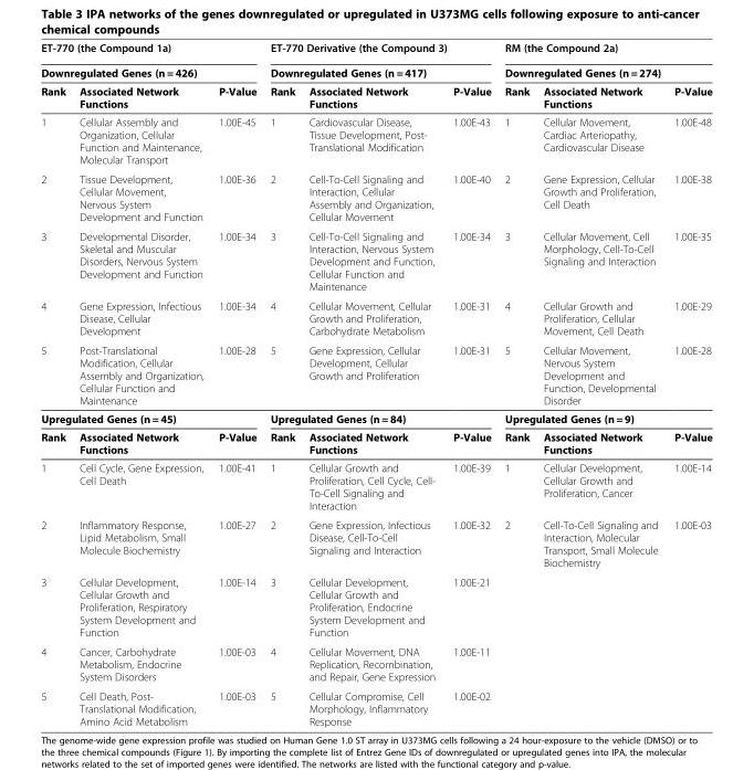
<table><thead><tr><td rowspan="2" colspan="3">ET-770 (the Compound 1a) Downregulated Genes (n = 426)</td><td rowspan="2" colspan="3">ET-770 Derivative (the Compound 3) Downregulated Genes (n = 417)</td><td rowspan="2" colspan="3">RM (the Compound 2a) Downregulated Genes (n = 274)</td></tr><tr></tr><tr><td>Rank</td><td>Associated Network Functions</td><td>P-Value</td><td>Rank</td><td>Associated Network Functions</td><td>P-Value</td><td>Rank</td><td>Associated Network Functions</td><td>P-Value</td></tr></thead><tbody><tr><td>1</td><td>Cellular Assembly and Organization, Cellular Function and Maintenance, Molecular Transport</td><td>1.00E-45</td><td>1</td><td>Cardiovascular Disease, Tissue Development, Post- Translational Modification</td><td>1.00E-43</td><td>1</td><td>Cellular Movement, Cardiac Arteriopathy, Cardiovascular Disease</td><td>1.00E-48</td></tr><tr><td>2</td><td>Tissue Development, Cellular Movement, Nervous System Development and Function</td><td>1.00E-36</td><td>2</td><td>Cell-To-Cell Signaling and Interaction, Cellular Assembly and Organization, Cellular Movement</td><td>1.00E-40</td><td>2</td><td>Gene Expression, Cellular Growth and Proliferation, Cell Death</td><td>1.00E-38</td></tr><tr><td>3</td><td>Developmental Disorder, Skeletal and Muscular Disorders, Nervous System Development and Function</td><td>1.00E-34</td><td>3</td><td>Cell-To-Cell Signaling and Interaction, Nervous System Development and Function, Cellular Function and Maintenance</td><td>1.00E-34</td><td>3</td><td>Cellular Movement, Cell Morphology, Cell-To-Cell Signaling and Interaction</td><td>1.00E-35</td></tr><tr><td>4</td><td>Gene Expression, Infectious Disease, Cellular Development</td><td>1.00E-34</td><td>4</td><td>Cellular Movement, Cellular Growth and Proliferation, Carbohydrate Metabolism</td><td>1.00E-31</td><td>4</td><td>Cellular Growth and Proliferation, Cellular Movement, Cell Death</td><td>1.00E-29</td></tr><tr><td>5</td><td>Post-Translational Modification, Cellular Assembly and Organization, Cellular Function and Maintenance</td><td>1.00E-28</td><td>5</td><td>Gene Expression, Cellular Development, Cellular Growth and Proliferation</td><td>1.00E-31</td><td>5</td><td>Cellular Movement, Nervous System Development and Function, Developmental Disorder</td><td>1.00E-28</td></tr><tr><td colspan="3">Upregulated Genes (n = 45)</td><td colspan="3">Upregulated Genes (n = 84)</td><td colspan="3">Upregulated Genes (n = 9)</td></tr><tr><td>Rank</td><td>Associated Network Functions</td><td>P-Value</td><td>Rank</td><td>Associated Network Functions</td><td>P-Value</td><td>Rank</td><td>Associated Network Functions</td><td>P-Value</td></tr><tr><td>1</td><td>Cell Cycle, Gene Expression, Cell Death</td><td>1.00E-41</td><td>1</td><td>Cellular Growth and Proliferation, Cell Cycle, Cell- To-Cell Signaling and Interaction</td><td>1.00E-39</td><td>1</td><td>Cellular Development, Cellular Growth and Proliferation, Cancer</td><td>1.00E-14</td></tr><tr><td>2</td><td>Inflammatory Response, Lipid Metabolism, Small Molecule Biochemistry</td><td>1.00E-27</td><td>2</td><td>Gene Expression, Infectious Disease, Cell-To-Cell Signaling and Interaction</td><td>1.00E-32</td><td>2</td><td>Cell-To-Cell Signaling and Interaction, Molecular Transport, Small Molecule Biochemistry</td><td>1.00E-03</td></tr><tr><td>3</td><td>Cellular Development, Cellular Growth and Proliferation, Respiratory System Development and Function</td><td>1.00E-14</td><td>3</td><td>Cellular Development, Cellular Growth and Proliferation, Endocrine System Development and Function</td><td>1.00E-21</td><td></td><td></td><td></td></tr><tr><td>4</td><td>Cancer, Carbohydrate Metabolism, Endocrine System Disorders</td><td>1.00E-03</td><td>4</td><td>Cellular Movement, DNA Replication, Recombination, and Repair, Gene Expression</td><td>1.00E-11</td><td></td><td></td><td></td></tr><tr><td>5</td><td>Cell Death, Post- Translational Modification, Amino Acid Metabolism</td><td>1.00E-03</td><td>5</td><td>Cellular Compromise, Cell Morphology, Inflammatory Response</td><td>1.00E-02</td><td></td><td></td><td></td></tr></tbody></table>